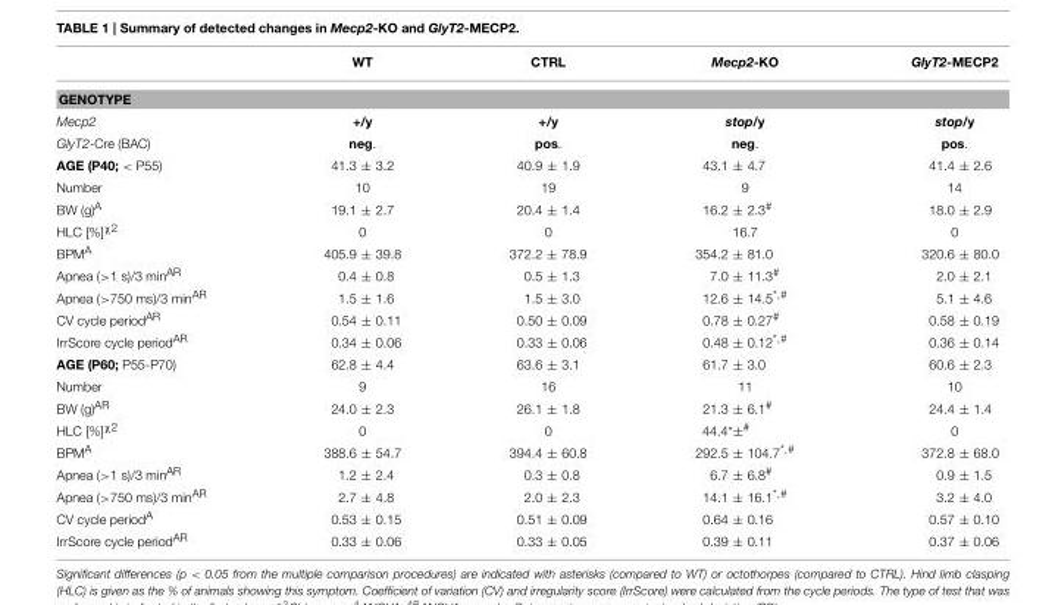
<table><thead><tr><td></td><td>WT</td><td>CTRL</td><td>Mecp2-KO</td><td>GlyT2-MECP2</td></tr></thead><tbody><tr><td colspan="5">GENOTYPE</td></tr><tr><td>Mecp2</td><td>+/y</td><td>+/y</td><td>stop/y</td><td>stop/y</td></tr><tr><td>GlyT2-Cre (BAC)</td><td>neg.</td><td>pos.</td><td>neg.</td><td>pos.</td></tr><tr><td>AGE (P40; &lt; P55)</td><td>41.3 ± 3.2</td><td>40.9 ± 1.9</td><td>43.1 ± 4.7</td><td>41.4 ± 2.6</td></tr><tr><td>Number</td><td>10</td><td>19</td><td>9</td><td>14</td></tr><tr><td>BW (g)<sup>A</sup></td><td>19.1 ± 2.7</td><td>20.4 ± 1.4</td><td>16.2 ± 2.3<sup>#</sup></td><td>18.0 ± 2.9</td></tr><tr><td>HLC [%]<sup>χ2</sup></td><td>0</td><td>0</td><td>16.7</td><td>0</td></tr><tr><td>BPM<sup>A</sup></td><td>405.9 ± 39.8</td><td>372.2 ± 78.9</td><td>354.2 ± 81.0</td><td>320.6 ± 80.0</td></tr><tr><td>Apnea (&gt;1 s)/3 min<sup>AR</sup></td><td>0.4 ± 0.8</td><td>0.5 ± 1.3</td><td>7.0 ± 11.3<sup>#</sup></td><td>2.0 ± 2.1</td></tr><tr><td>Apnea (&gt;750 ms)/3 min<sup>AR</sup></td><td>1.5 ± 1.6</td><td>1.5 ± 3.0</td><td>12.6 ± 14.5<sup>*,#</sup></td><td>5.1 ± 4.6</td></tr><tr><td>CV cycle period<sup>AR</sup></td><td>0.54 ± 0.11</td><td>0.50 ± 0.09</td><td>0.78 ± 0.27<sup>#</sup></td><td>0.58 ± 0.19</td></tr><tr><td>IrrScore cycle period<sup>AR</sup></td><td>0.34 ± 0.06</td><td>0.33 ± 0.06</td><td>0.48 ± 0.12<sup>*,#</sup></td><td>0.36 ± 0.14</td></tr><tr><td>AGE (P60; P55-P70)</td><td>62.8 ± 4.4</td><td>63.6 ± 3.1</td><td>61.7 ± 3.0</td><td>60.6 ± 2.3</td></tr><tr><td>Number</td><td>9</td><td>16</td><td>11</td><td>10</td></tr><tr><td>BW (g)<sup>AR</sup></td><td>24.0 ± 2.3</td><td>26.1 ± 1.8</td><td>21.3 ± 6.1<sup>#</sup></td><td>24.4 ± 1.4</td></tr><tr><td>HLC [%]χ2</td><td>0</td><td>0</td><td>44.4*±<sup>#</sup></td><td>0</td></tr><tr><td>BPM<sup>A</sup></td><td>388.6 ± 54.7</td><td>394.4 ± 60.8</td><td>292.5 ± 104.7<sup>*,#</sup></td><td>372.8 ± 68.0</td></tr><tr><td>Apnea (&gt;1 s)/3 min<sup>AR</sup></td><td>1.2 ± 2.4</td><td>0.3 ± 0.8</td><td>6.7 ± 6.8<sup>#</sup></td><td>0.9 ± 1.5</td></tr><tr><td>Apnea (&gt;750 ms)/3 min<sup>AR</sup></td><td>2.7 ± 4.8</td><td>2.0 ± 2.3</td><td>14.1 ± 16.1<sup>*,#</sup></td><td>3.2 ± 4.0</td></tr><tr><td>CV cycle period<sup>A</sup></td><td>0.53 ± 0.15</td><td>0.51 ± 0.09</td><td>0.64 ± 0.16</td><td>0.57 ± 0.10</td></tr><tr><td>IrrScore cycle period<sup>AR</sup></td><td>0.33 ± 0.06</td><td>0.33 ± 0.05</td><td>0.39 ± 0.11</td><td>0.37 ± 0.06</td></tr></tbody></table>